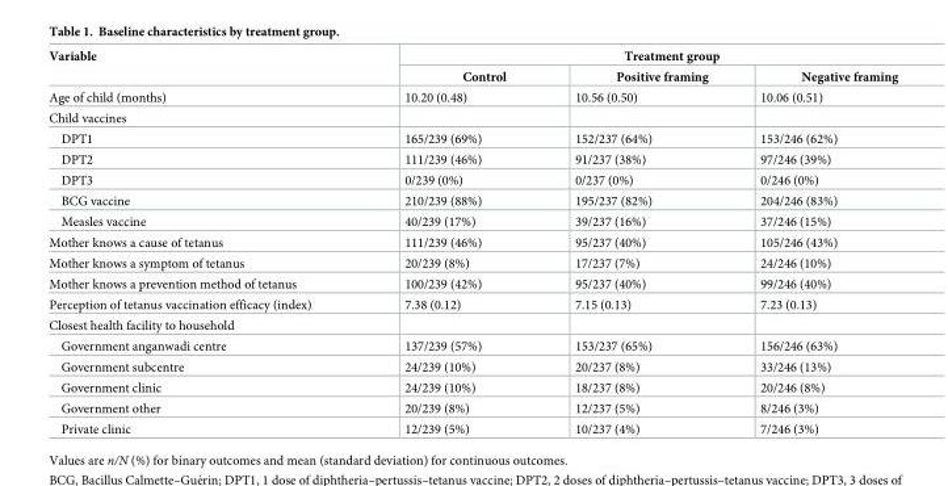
<table><thead><tr><td rowspan="2">Variable</td><td colspan="3">Treatment group</td></tr><tr><td>Control</td><td>Positive framing</td><td>Negative framing</td></tr></thead><tbody><tr><td>Age of child (months)</td><td>10.20 (0.48)</td><td>10.56 (0.50)</td><td>10.06 (0.51)</td></tr><tr><td colspan="4">Child vaccines</td></tr><tr><td>DPT1</td><td>165/239 (69%)</td><td>152/237 (64%)</td><td>153/246 (62%)</td></tr><tr><td>DPT2</td><td>111/239 (46%)</td><td>91/237 (38%)</td><td>97/246 (39%)</td></tr><tr><td>DPT3</td><td>0/239 (0%)</td><td>0/237 (0%)</td><td>0/246 (0%)</td></tr><tr><td>BCG vaccine</td><td>210/239 (88%)</td><td>195/237 (82%)</td><td>204/246 (83%)</td></tr><tr><td>Measles vaccine</td><td>40/239 (17%)</td><td>39/237 (16%)</td><td>37/246 (15%)</td></tr><tr><td>Mother knows a cause of tetanus</td><td>111/239 (46%)</td><td>95/237 (40%)</td><td>105/246 (43%)</td></tr><tr><td>Mother knows a symptom of tetanus</td><td>20/239 (8%)</td><td>17/237 (7%)</td><td>24/246 (10%)</td></tr><tr><td>Mother knows a prevention method of tetanus</td><td>100/239 (42%)</td><td>95/237 (40%)</td><td>99/246 (40%)</td></tr><tr><td>Perception of tetanus vaccination efficacy (index)</td><td>7.38 (0.12)</td><td>7.15 (0.13)</td><td>7.23 (0.13)</td></tr><tr><td colspan="4">Closest health facility to household</td></tr><tr><td>Government anganwadi centre</td><td>137/239 (57%)</td><td>153/237 (65%)</td><td>156/246 (63%)</td></tr><tr><td>Government subcentre</td><td>24/239 (10%)</td><td>20/237 (8%)</td><td>33/246 (13%)</td></tr><tr><td>Government clinic</td><td>24/239 (10%)</td><td>18/237 (8%)</td><td>20/246 (8%)</td></tr><tr><td>Government other</td><td>20/239 (8%)</td><td>12/237 (5%)</td><td>8/246 (3%)</td></tr><tr><td>Private clinic</td><td>12/239 (5%)</td><td>10/237 (4%)</td><td>7/246 (3%)</td></tr></tbody></table>